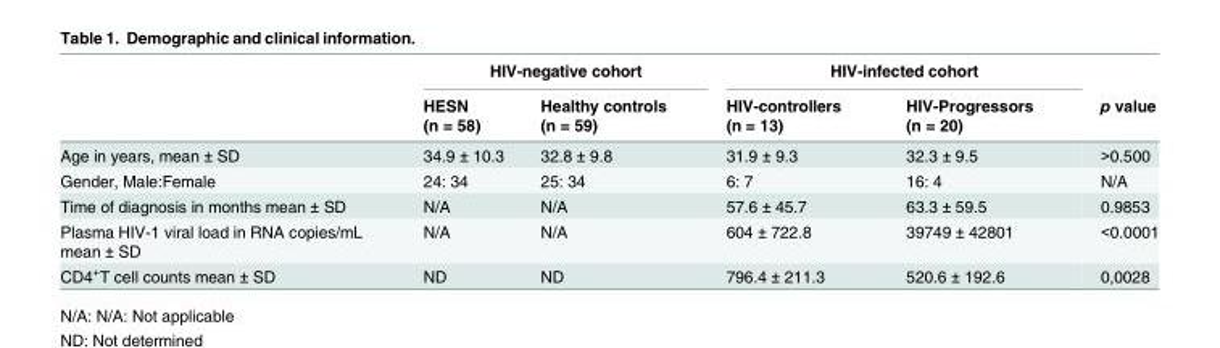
<table><thead><tr><td rowspan="2"></td><td colspan="2">HIV-negative cohort</td><td colspan="2">HIV-infected cohort</td><td rowspan="2">p value</td></tr><tr><td>HESN (n = 58)</td><td>Healthy controls (n = 59)</td><td>HIV-controllers (n = 13)</td><td>HIV-Progressors (n = 20)</td></tr></thead><tbody><tr><td>Age in years, mean ± SD</td><td>34.9 ± 10.3</td><td>32.8 ± 9.8</td><td>31.9 ± 9.3</td><td>32.3 ± 9.5</td><td>&gt;0.500</td></tr><tr><td>Gender, Male:Female</td><td>24: 34</td><td>25: 34</td><td>6: 7</td><td>16: 4</td><td>N/A</td></tr><tr><td>Time of diagnosis in months mean ± SD</td><td>N/A</td><td>N/A</td><td>57.6 ± 45.7</td><td>63.3 ± 59.5</td><td>0.9853</td></tr><tr><td>Plasma HIV-1 viral load in RNA copies/mL mean ± SD</td><td>N/A</td><td>N/A</td><td>604 ± 722.8</td><td>39749 ± 42801</td><td>&lt;0.0001</td></tr><tr><td>CD4<sup>+</sup>T cell counts mean ± SD</td><td>ND</td><td>ND</td><td>796.4 ± 211.3</td><td>520.6 ± 192.6</td><td>0,0028</td></tr></tbody></table>